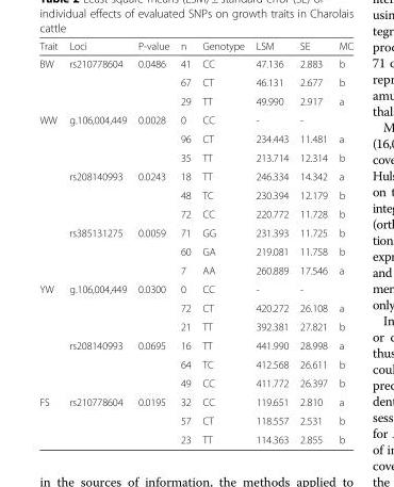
<table><thead><tr><td>Trait</td><td>Loci</td><td>P-value</td><td>n</td><td>Genotype</td><td>LSM</td><td>SE</td><td>MC</td></tr></thead><tbody><tr><td rowspan="3">BW</td><td>rs210778604</td><td>0.0486</td><td>41</td><td>CC</td><td>47.136</td><td>2.883</td><td>b</td></tr><tr><td></td><td></td><td>67</td><td>CT</td><td>46.131</td><td>2.677</td><td>b</td></tr><tr><td></td><td></td><td>29</td><td>TT</td><td>49.990</td><td>2.917</td><td>a</td></tr><tr><td rowspan="9">WW</td><td>g.106,004,449</td><td>0.0028</td><td>0</td><td>CC</td><td>-</td><td>-</td><td></td></tr><tr><td></td><td></td><td>96</td><td>CT</td><td>234.443</td><td>11.481</td><td>a</td></tr><tr><td></td><td></td><td>35</td><td>TT</td><td>213.714</td><td>12.314</td><td>b</td></tr><tr><td>rs208140993</td><td>0.0243</td><td>18</td><td>TT</td><td>246.334</td><td>14.342</td><td>a</td></tr><tr><td></td><td></td><td>48</td><td>TC</td><td>230.394</td><td>12.179</td><td>b</td></tr><tr><td></td><td></td><td>72</td><td>CC</td><td>220.772</td><td>11.728</td><td>b</td></tr><tr><td>rs385131275</td><td>0.0059</td><td>71</td><td>GG</td><td>231.393</td><td>11.725</td><td>b</td></tr><tr><td></td><td></td><td>60</td><td>GA</td><td>219.081</td><td>11.758</td><td>b</td></tr><tr><td></td><td></td><td>7</td><td>AA</td><td>260.889</td><td>17.546</td><td>a</td></tr><tr><td rowspan="6">YW</td><td>g.106,004,449</td><td>0.0300</td><td>0</td><td>CC</td><td>-</td><td>-</td><td></td></tr><tr><td></td><td></td><td>72</td><td>CT</td><td>420.272</td><td>26.108</td><td>a</td></tr><tr><td></td><td></td><td>21</td><td>TT</td><td>392.381</td><td>27.821</td><td>b</td></tr><tr><td>rs208140993</td><td>0.0695</td><td>16</td><td>TT</td><td>441.990</td><td>28.998</td><td>a</td></tr><tr><td></td><td></td><td>64</td><td>TC</td><td>412.568</td><td>26.611</td><td>b</td></tr><tr><td></td><td></td><td>49</td><td>CC</td><td>411.772</td><td>26.397</td><td>b</td></tr><tr><td rowspan="3">FS</td><td>rs210778604</td><td>0.0195</td><td>32</td><td>CC</td><td>119.651</td><td>2.810</td><td>a</td></tr><tr><td></td><td></td><td>57</td><td>CT</td><td>118.557</td><td>2.531</td><td>b</td></tr><tr><td></td><td></td><td>23</td><td>TT</td><td>114.363</td><td>2.855</td><td>b</td></tr></tbody></table>